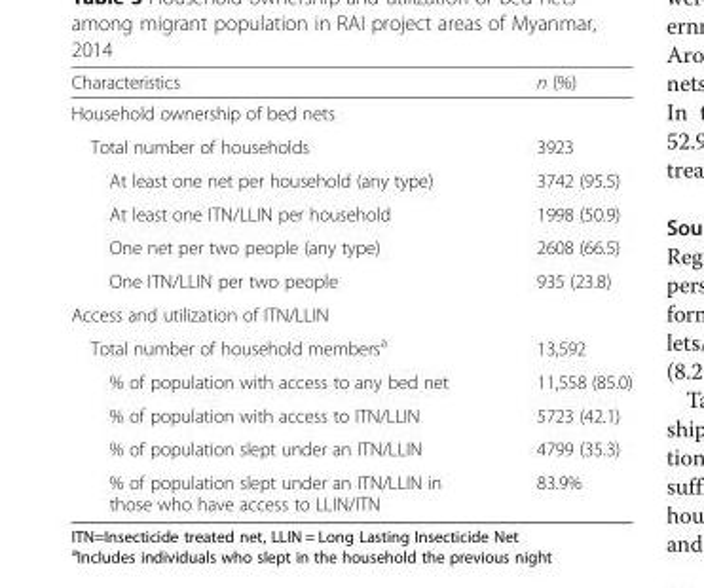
<table><thead><tr><td>Characteristics</td><td>n (%)</td></tr></thead><tbody><tr><td colspan="2">Household ownership of bed nets</td></tr><tr><td>Total number of households</td><td>3923</td></tr><tr><td>At least one net per household (any type)</td><td>3742 (95.5)</td></tr><tr><td>At least one ITN/LLIN per household</td><td>1998 (50.9)</td></tr><tr><td>One net per two people (any type)</td><td>2608 (66.5)</td></tr><tr><td>One ITN/LLIN per two people</td><td>935 (23.8)</td></tr><tr><td colspan="2">Access and utilization of ITN/LLIN</td></tr><tr><td>Total number of household members<sup>a</sup></td><td>13,592</td></tr><tr><td>% of population with access to any bed net</td><td>11,558 (85.0)</td></tr><tr><td>% of population with access to ITN/LLIN</td><td>5723 (42.1)</td></tr><tr><td>% of population slept under an ITN/LLIN</td><td>4799 (35.3)</td></tr><tr><td>% of population slept under an ITN/LLIN in those who have access to LLIN/ITN</td><td>83.9%</td></tr></tbody></table>